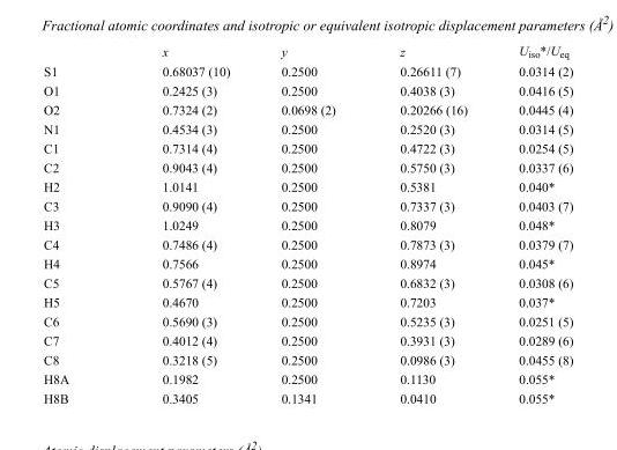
<table><thead><tr><td></td><td>x</td><td>y</td><td>z</td><td>U<sub>iso</sub>*/U<sub>eq</sub></td></tr></thead><tbody><tr><td>S1</td><td>0.68037 (10)</td><td>0.2500</td><td>0.26611 (7)</td><td>0.0314 (2)</td></tr><tr><td>O1</td><td>0.2425 (3)</td><td>0.2500</td><td>0.4038 (3)</td><td>0.0416 (5)</td></tr><tr><td>O2</td><td>0.7324 (2)</td><td>0.0698 (2)</td><td>0.20266 (16)</td><td>0.0445 (4)</td></tr><tr><td>N1</td><td>0.4534 (3)</td><td>0.2500</td><td>0.2520 (3)</td><td>0.0314 (5)</td></tr><tr><td>C1</td><td>0.7314 (4)</td><td>0.2500</td><td>0.4722 (3)</td><td>0.0254 (5)</td></tr><tr><td>C2</td><td>0.9043 (4)</td><td>0.2500</td><td>0.5750 (3)</td><td>0.0337 (6)</td></tr><tr><td>H2</td><td>1.0141</td><td>0.2500</td><td>0.5381</td><td>0.040*</td></tr><tr><td>C3</td><td>0.9090 (4)</td><td>0.2500</td><td>0.7337 (3)</td><td>0.0403 (7)</td></tr><tr><td>H3</td><td>1.0249</td><td>0.2500</td><td>0.8079</td><td>0.048*</td></tr><tr><td>C4</td><td>0.7486 (4)</td><td>0.2500</td><td>0.7873 (3)</td><td>0.0379 (7)</td></tr><tr><td>H4</td><td>0.7566</td><td>0.2500</td><td>0.8974</td><td>0.045*</td></tr><tr><td>C5</td><td>0.5767 (4)</td><td>0.2500</td><td>0.6832 (3)</td><td>0.0308 (6)</td></tr><tr><td>H5</td><td>0.4670</td><td>0.2500</td><td>0.7203</td><td>0.037*</td></tr><tr><td>C6</td><td>0.5690 (3)</td><td>0.2500</td><td>0.5235 (3)</td><td>0.0251 (5)</td></tr><tr><td>C7</td><td>0.4012 (4)</td><td>0.2500</td><td>0.3931 (3)</td><td>0.0289 (6)</td></tr><tr><td>C8</td><td>0.3218 (5)</td><td>0.2500</td><td>0.0986 (3)</td><td>0.0455 (8)</td></tr><tr><td>H8A</td><td>0.1982</td><td>0.2500</td><td>0.1130</td><td>0.055*</td></tr><tr><td>H8B</td><td>0.3405</td><td>0.1341</td><td>0.0410</td><td>0.055*</td></tr></tbody></table>